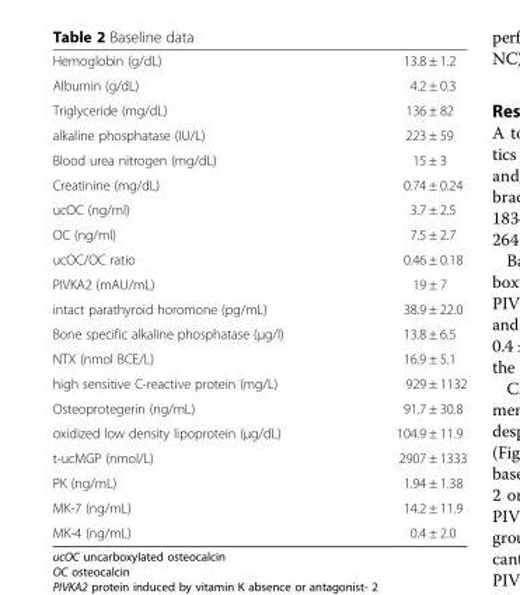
<table><tbody><tr><td>Hemoglobin (g/dL)</td><td>13.8 ± 1.2</td></tr><tr><td>Albumin (g/dL)</td><td>4.2 ± 0.3</td></tr><tr><td>Triglyceride (mg/dL)</td><td>136 ± 82</td></tr><tr><td>alkaline phosphatase (IU/L)</td><td>223 ± 59</td></tr><tr><td>Blood urea nitrogen (mg/dL)</td><td>15 ± 3</td></tr><tr><td>Creatinine (mg/dL)</td><td>0.74 ± 0.24</td></tr><tr><td>ucOC (ng/ml)</td><td>3.7 ± 2.5</td></tr><tr><td>OC (ng/ml)</td><td>7.5 ± 2.7</td></tr><tr><td>ucOC/OC ratio</td><td>0.46 ± 0.18</td></tr><tr><td>PIVKA2 (mAU/mL)</td><td>19 ± 7</td></tr><tr><td>intact parathyroid horomone (pg/mL)</td><td>38.9 ± 22.0</td></tr><tr><td>Bone specific alkaline phosphatase (μg/l)</td><td>13.8 ± 6.5</td></tr><tr><td>NTX (nmol BCE/L)</td><td>16.9 ± 5.1</td></tr><tr><td>high sensitive C-reactive protein (mg/L)</td><td>929 ± 1132</td></tr><tr><td>Osteoprotegerin (ng/mL)</td><td>91.7 ± 30.8</td></tr><tr><td>oxidized low density lipoprotein (μg/dL)</td><td>104.9 ± 11.9</td></tr><tr><td>t-ucMGP (nmol/L)</td><td>2907 ± 1333</td></tr><tr><td>PK (ng/mL)</td><td>1.94 ± 1.38</td></tr><tr><td>MK-7 (ng/mL)</td><td>14.2 ± 11.9</td></tr><tr><td>MK-4 (ng/mL)</td><td>0.4 ± 2.0</td></tr></tbody></table>